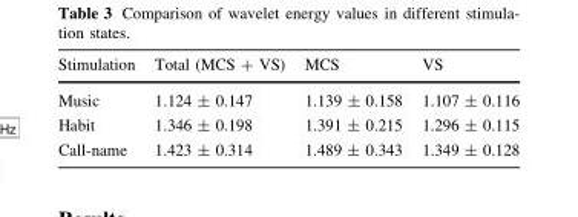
<table><thead><tr><td>Stimulation</td><td>Total (MCS + VS)</td><td>MCS</td><td>VS</td></tr></thead><tbody><tr><td>Music</td><td>1.124 ± 0.147</td><td>1.139 ± 0.158</td><td>1.107 ± 0.116</td></tr><tr><td>Habit</td><td>1.346 ± 0.198</td><td>1.391 ± 0.215</td><td>1.296 ± 0.115</td></tr><tr><td>Call-name</td><td>1.423 ± 0.314</td><td>1.489 ± 0.343</td><td>1.349 ± 0.128</td></tr></tbody></table>